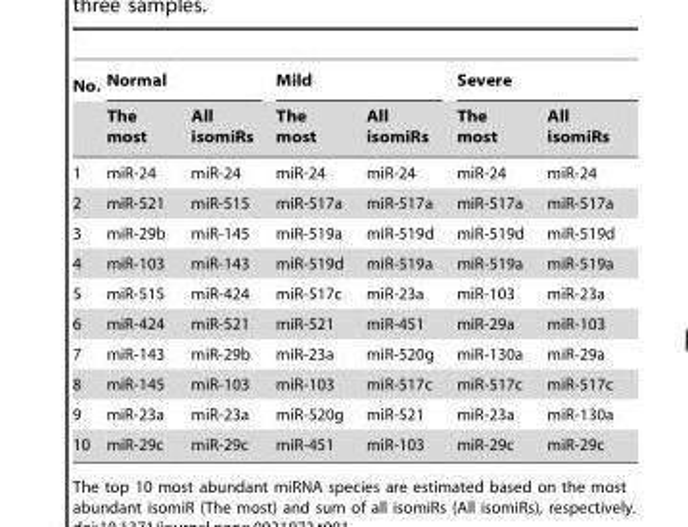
<table><thead><tr><td rowspan="2">No.</td><td colspan="2">Normal</td><td colspan="2">Mild</td><td colspan="2">Severe</td></tr><tr><td>The most</td><td>All isomiRs</td><td>The most</td><td>All isomiRs</td><td>The most</td><td>All isomiRs</td></tr></thead><tbody><tr><td>1</td><td>miR-24</td><td>miR-24</td><td>miR-24</td><td>miR-24</td><td>miR-24</td><td>miR-24</td></tr><tr><td>2</td><td>miR-521</td><td>miR-515</td><td>miR-517a</td><td>miR-517a</td><td>miR-517a</td><td>miR-517a</td></tr><tr><td>3</td><td>miR-29b</td><td>miR-145</td><td>miR-519a</td><td>miR-519d</td><td>miR-519d</td><td>miR-519d</td></tr><tr><td>4</td><td>miR-103</td><td>miR-143</td><td>miR-519d</td><td>miR-519a</td><td>miR-519a</td><td>miR-519a</td></tr><tr><td>5</td><td>miR-515</td><td>miR-424</td><td>miR-517c</td><td>miR-23a</td><td>miR-103</td><td>miR-23a</td></tr><tr><td>6</td><td>miR-424</td><td>miR-521</td><td>miR-521</td><td>miR-451</td><td>miR-29a</td><td>miR-103</td></tr><tr><td>7</td><td>miR-143</td><td>miR-29b</td><td>miR-23a</td><td>miR-520g</td><td>miR-130a</td><td>miR-29a</td></tr><tr><td>8</td><td>miR-145</td><td>miR-103</td><td>miR-103</td><td>miR-517c</td><td>miR-517c</td><td>miR-517c</td></tr><tr><td>9</td><td>miR-23a</td><td>miR-23a</td><td>miR-520g</td><td>miR-521</td><td>miR-23a</td><td>miR-130a</td></tr><tr><td>10</td><td>miR-29c</td><td>miR-29c</td><td>miR-451</td><td>miR-103</td><td>miR-29c</td><td>miR-29c</td></tr></tbody></table>